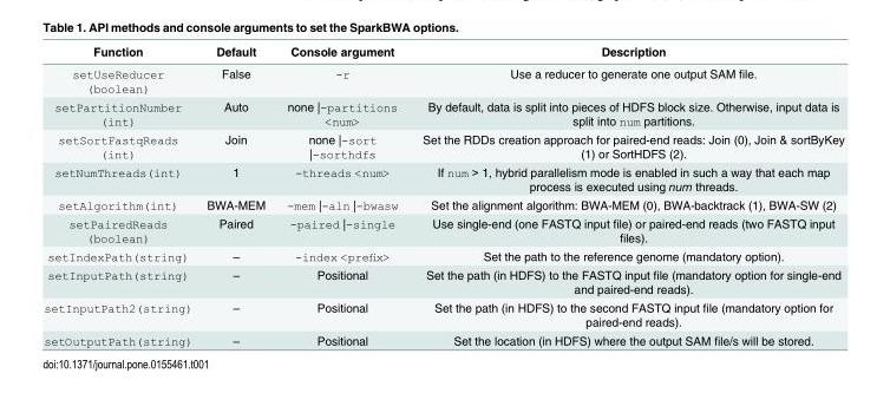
<table><thead><tr><td>Function</td><td>Default</td><td>Console argument</td><td>Description</td></tr></thead><tbody><tr><td>setUseReducer (boolean)</td><td>False</td><td>-r</td><td>Use a reducer to generate one output SAM file.</td></tr><tr><td>setPartitionNumber (int)</td><td>Auto</td><td>none |-partitions &lt;num&gt;</td><td>By default, data is split into pieces of HDFS block size. Otherwise, input data is split into num partitions.</td></tr><tr><td>setSortFastqReads (int)</td><td>Join</td><td>none |-sort |-sorthdfs</td><td>Set the RDDs creation approach for paired-end reads: Join (0), Join &amp; sortByKey (1) or SortHDFS (2).</td></tr><tr><td>setNumThreads(int)</td><td>1</td><td>-threads &lt;num&gt;</td><td>If num &gt; 1, hybrid parallelism mode is enabled in such a way that each map process is executed using num threads.</td></tr><tr><td>setAlgorithm(int)</td><td>BWA-MEM</td><td>-mem |-aln |-bwasw</td><td>Set the alignment algorithm: BWA-MEM (0), BWA-backtrack (1), BWA-SW (2)</td></tr><tr><td>setPairedReads (boolean)</td><td>Paired</td><td>-paired |-single</td><td>Use single-end (one FASTQ input file) or paired-end reads (two FASTQ input files).</td></tr><tr><td>setIndexPath(string)</td><td>–</td><td>-index &lt;prefix&gt;</td><td>Set the path to the reference genome (mandatory option).</td></tr><tr><td>setInputPath(string)</td><td>–</td><td>Positional</td><td>Set the path (in HDFS) to the FASTQ input file (mandatory option for single-end and paired-end reads).</td></tr><tr><td>setInputPath2(string)</td><td>–</td><td>Positional</td><td>Set the path (in HDFS) to the second FASTQ input file (mandatory option for paired-end reads).</td></tr><tr><td>setOutputPath(string)</td><td>–</td><td>Positional</td><td>Set the location (in HDFS) where the output SAM file/s will be stored.</td></tr></tbody></table>